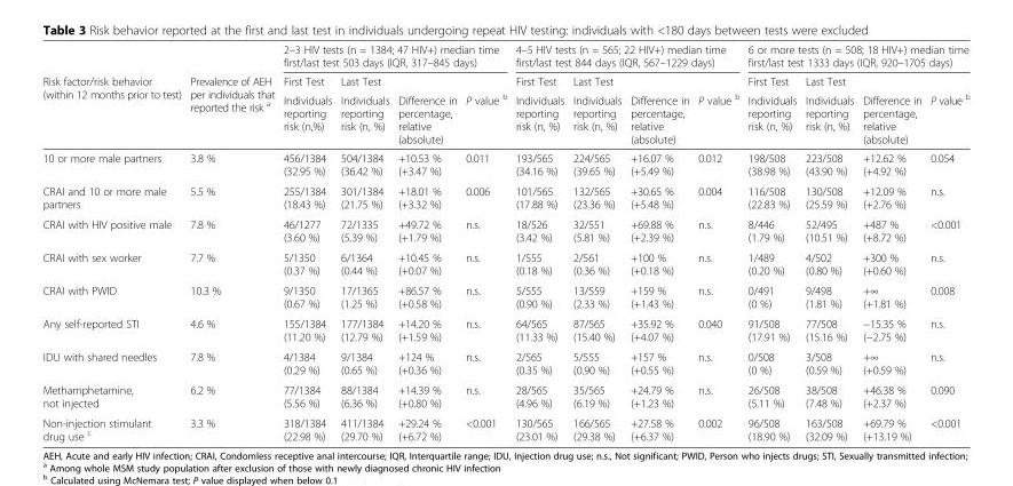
<table><thead><tr><td rowspan="3">Risk factor/risk behavior (within 12 months prior to test)</td><td rowspan="3">Prevalence of AEH per individuals that reported the risk <sup>a</sup></td><td colspan="4">2–3 HIV tests (n = 1384; 47 HIV+) median time first/last test 503 days (IQR, 317–845 days)</td><td colspan="4">4–5 HIV tests (n = 565; 22 HIV+) median time first/last test 844 days (IQR, 567–1229 days)</td><td colspan="4">6 or more tests (n = 508; 18 HIV+) median time first/last test 1333 days (IQR, 920–1705 days)</td></tr><tr><td rowspan="2">First Test Individuals reporting risk (n,%)</td><td rowspan="2">Last Test Individuals reporting risk (n, %)</td><td rowspan="2">Difference in percentage, relative (absolute)</td><td rowspan="2">P value <sup>b</sup></td><td rowspan="2">First Test Individuals reporting risk (n, %)</td><td rowspan="2">Last Test Individuals reporting risk (n, %)</td><td rowspan="2">Difference in percentage, relative (absolute)</td><td rowspan="2">P value <sup>b</sup></td><td rowspan="2">First Test Individuals reporting risk (n, %)</td><td rowspan="2">Last Test Individuals reporting risk (n, %)</td><td rowspan="2">Difference in percentage, relative (absolute)</td><td rowspan="2">P value <sup>b</sup></td></tr><tr></tr></thead><tbody><tr><td>10 or more male partners</td><td>3.8 %</td><td>456/1384 (32.95 %)</td><td>504/1384 (36.42 %)</td><td>+10.53 % (+3.47 %)</td><td>0.011</td><td>193/565 (34.16 %)</td><td>224/565 (39.65 %)</td><td>+16.07 % (+5.49 %)</td><td>0.012</td><td>198/508 (38.98 %)</td><td>223/508 (43.90 %)</td><td>+12.62 % (+4.92 %)</td><td>0.054</td></tr><tr><td>CRAI and 10 or more male partners</td><td>5.5 %</td><td>255/1384 (18.43 %)</td><td>301/1384 (21.75 %)</td><td>+18.01 % (+3.32 %)</td><td>0.006</td><td>101/565 (17.88 %)</td><td>132/565 (23.36 %)</td><td>+30.65 % (+5.48 %)</td><td>0.004</td><td>116/508 (22.83 %)</td><td>130/508 (25.59 %)</td><td>+12.09 % (+2.76 %)</td><td>n.s.</td></tr><tr><td>CRAI with HIV positive male</td><td>7.8 %</td><td>46/1277 (3.60 %)</td><td>72/1335 (5.39 %)</td><td>+49.72 % (+1.79 %)</td><td>n.s.</td><td>18/526 (3.42 %)</td><td>32/551 (5.81 %)</td><td>+69.88 % (+2.39 %)</td><td>n.s.</td><td>8/446 (1.79 %)</td><td>52/495 (10.51 %)</td><td>+487 % (+8.72 %)</td><td>&lt;0.001</td></tr><tr><td>CRAI with sex worker</td><td>7.7 %</td><td>5/1350 (0.37 %)</td><td>6/1364 (0.44 %)</td><td>+10.45 % (+0.07 %)</td><td>n.s.</td><td>1/555 (0.18 %)</td><td>2/561 (0.36 %)</td><td>+100 % (+0.18 %)</td><td>n.s.</td><td>1/489 (0.20 %)</td><td>4/502 (0.80 %)</td><td>+300 % (+0.60 %)</td><td>n.s.</td></tr><tr><td>CRAI with PWID</td><td>10.3 %</td><td>9/1350 (0.67 %)</td><td>17/1365 (1.25 %)</td><td>+86.57 % (+0.58 %)</td><td>n.s.</td><td>5/555 (0.90 %)</td><td>13/559 (2.33 %)</td><td>+159 % (+1.43 %)</td><td>n.s.</td><td>0/491 (0 %)</td><td>9/498 (1.81 %)</td><td>+∞ (+1.81 %)</td><td>0.008</td></tr><tr><td>Any self-reported STI</td><td>4.6 %</td><td>155/1384 (11.20 %)</td><td>177/1384 (12.79 %)</td><td>+14.20 % (+1.59 %)</td><td>n.s.</td><td>64/565 (11.33 %)</td><td>87/565 (15.40 %)</td><td>+35.92 % (+4.07 %)</td><td>0.040</td><td>91/508 (17.91 %)</td><td>77/508 (15.16 %)</td><td>−15.35 % (−2.75 %)</td><td>n.s.</td></tr><tr><td>IDU with shared needles</td><td>7.8 %</td><td>4/1384 (0.29 %)</td><td>9/1384 (0.65 %)</td><td>+124 % (+0.36 %)</td><td>n.s.</td><td>2/565 (0.35 %)</td><td>5/555 (0.90 %)</td><td>+157 % (+0.55 %)</td><td>n.s.</td><td>0/508 (0 %)</td><td>3/508 (0.59 %)</td><td>+∞ (+0.59 %)</td><td>n.s.</td></tr><tr><td>Methamphetamine, not injected</td><td>6.2 %</td><td>77/1384 (5.56 %)</td><td>88/1384 (6.36 %)</td><td>+14.39 % (+0.80 %)</td><td>n.s.</td><td>28/565 (4.96 %)</td><td>35/565 (6.19 %)</td><td>+24.79 % (+1.23 %)</td><td>n.s.</td><td>26/508 (5.11 %)</td><td>38/508 (7.48 %)</td><td>+46.38 % (+2.37 %)</td><td>0.090</td></tr><tr><td>Non-injection stimulant drug use <sup>c</sup></td><td>3.3 %</td><td>318/1384 (22.98 %)</td><td>411/1384 (29.70 %)</td><td>+29.24 % (+6.72 %)</td><td>&lt;0.001</td><td>130/565 (23.01 %)</td><td>166/565 (29.38 %)</td><td>+27.58 % (+6.37 %)</td><td>0.002</td><td>96/508 (18.90 %)</td><td>163/508 (32.09 %)</td><td>+69.79 % (+13.19 %)</td><td>&lt;0.001</td></tr></tbody></table>